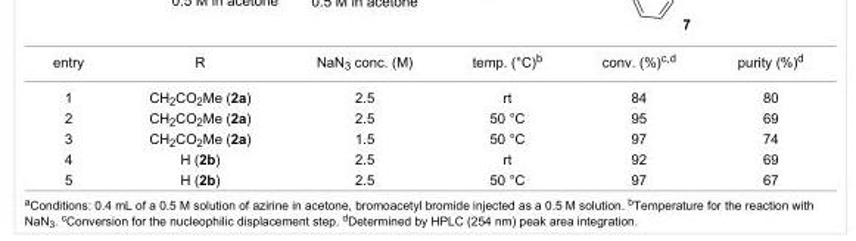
<table><tbody><tr><td>entry</td><td>R</td><td>NaN<sub>3</sub> conc. (M)</td><td>temp. (°C)<sup>b</sup></td><td>conv. (%)<sup>c,d</sup></td><td>purity (%)<sup>d</sup></td></tr><tr><td>1</td><td>CH<sub>2</sub>CO<sub>2</sub>Me (2a)</td><td>2.5</td><td>rt</td><td>84</td><td>80</td></tr><tr><td>2</td><td>CH<sub>2</sub>CO<sub>2</sub>Me (2a)</td><td>2.5</td><td>50 °C</td><td>95</td><td>69</td></tr><tr><td>3</td><td>CH<sub>2</sub>CO<sub>2</sub>Me (2a)</td><td>1.5</td><td>50 °C</td><td>97</td><td>74</td></tr><tr><td>4</td><td>H (2b)</td><td>2.5</td><td>rt</td><td>92</td><td>69</td></tr><tr><td>5</td><td>H (2b)</td><td>2.5</td><td>50 °C</td><td>97</td><td>67</td></tr></tbody></table>